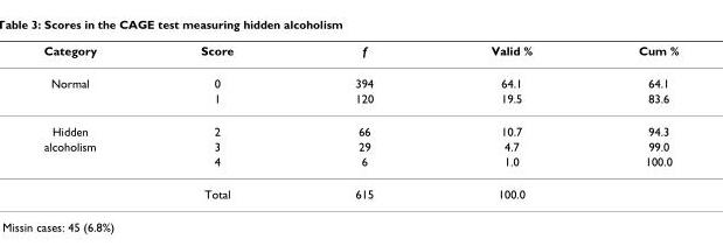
<table><thead><tr><td>Category</td><td>Score</td><td>f</td><td>Valid %</td><td>Cum %</td></tr></thead><tbody><tr><td rowspan="2">Normal</td><td>0</td><td>394</td><td>64.1</td><td>64.1</td></tr><tr><td>1</td><td>120</td><td>19.5</td><td>83.6</td></tr><tr><td>Hidden</td><td>2</td><td>66</td><td>10.7</td><td>94.3</td></tr><tr><td rowspan="3">alcoholism</td><td>3</td><td>29</td><td>4.7</td><td>99.0</td></tr><tr><td>4</td><td>6</td><td>1.0</td><td>100.0</td></tr><tr><td>Total</td><td>615</td><td>100.0</td><td></td></tr></tbody></table>